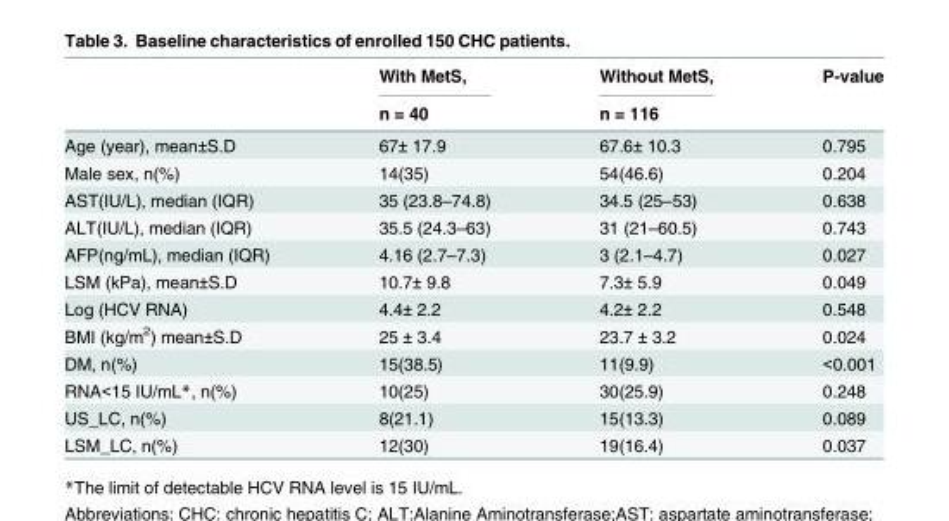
<table><thead><tr><td rowspan="2"></td><td rowspan="2">With MetS, n = 40</td><td rowspan="2">Without MetS, n = 116</td><td rowspan="2">P-value</td></tr><tr></tr></thead><tbody><tr><td>Age (year), mean±S.D</td><td>67± 17.9</td><td>67.6± 10.3</td><td>0.795</td></tr><tr><td>Male sex, n(%)</td><td>14(35)</td><td>54(46.6)</td><td>0.204</td></tr><tr><td>AST(IU/L), median (IQR)</td><td>35 (23.8–74.8)</td><td>34.5 (25–53)</td><td>0.638</td></tr><tr><td>ALT(IU/L), median (IQR)</td><td>35.5 (24.3–63)</td><td>31 (21–60.5)</td><td>0.743</td></tr><tr><td>AFP(ng/mL), median (IQR)</td><td>4.16 (2.7–7.3)</td><td>3 (2.1–4.7)</td><td>0.027</td></tr><tr><td>LSM (kPa), mean±S.D</td><td>10.7± 9.8</td><td>7.3± 5.9</td><td>0.049</td></tr><tr><td>Log (HCV RNA)</td><td>4.4± 2.2</td><td>4.2± 2.2</td><td>0.548</td></tr><tr><td>BMI (kg/m<sup>2</sup>) mean±S.D</td><td>25 ± 3.4</td><td>23.7 ± 3.2</td><td>0.024</td></tr><tr><td>DM, n(%)</td><td>15(38.5)</td><td>11(9.9)</td><td>&lt;0.001</td></tr><tr><td>RNA&lt;15 IU/mL*, n(%)</td><td>10(25)</td><td>30(25.9)</td><td>0.248</td></tr><tr><td>US_LC, n(%)</td><td>8(21.1)</td><td>15(13.3)</td><td>0.089</td></tr><tr><td>LSM_LC, n(%)</td><td>12(30)</td><td>19(16.4)</td><td>0.037</td></tr></tbody></table>